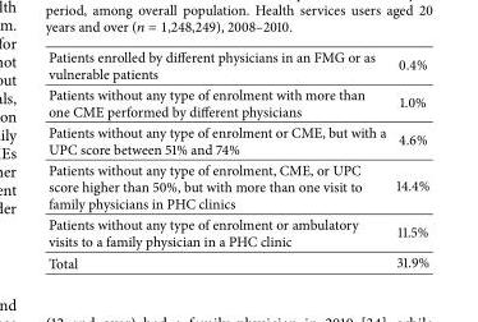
<table><tbody><tr><td>Patients enrolled by different physicians in an FMG or as vulnerable patients</td><td>0.4%</td></tr><tr><td>Patients without any type of enrolment with more than one CME performed by different physicians</td><td>1.0%</td></tr><tr><td>Patients without any type of enrolment or CME, but with a UPC score between 51% and 74%</td><td>4.6%</td></tr><tr><td>Patients without any type of enrolment, CME, or UPC score higher than 50%, but with more than one visit to family physicians in PHC clinics</td><td>14.4%</td></tr><tr><td>Patients without any type of enrolment or ambulatory visits to a family physician in a PHC clinic</td><td>11.5%</td></tr><tr><td>Total</td><td>31.9%</td></tr></tbody></table>